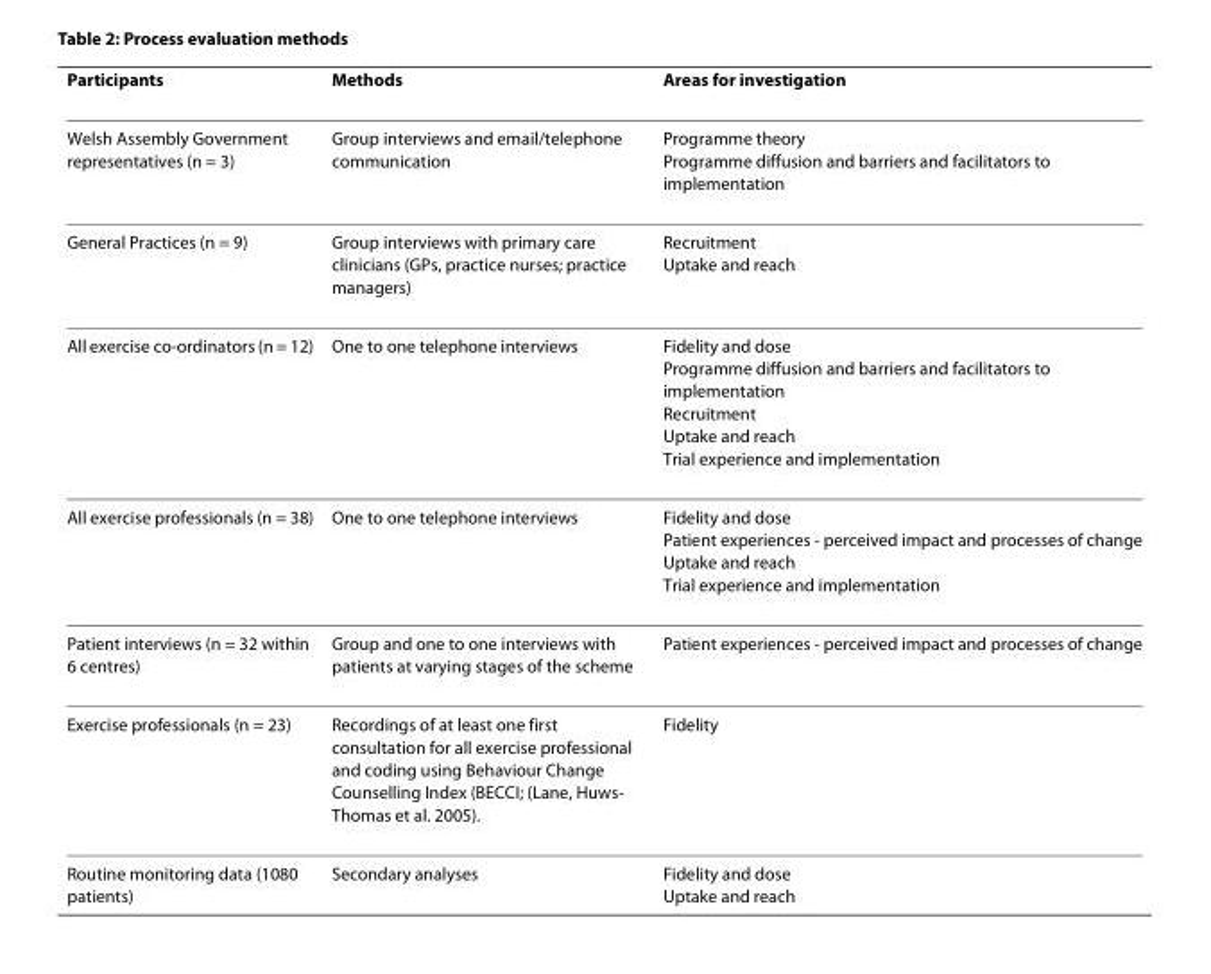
<table><thead><tr><td>Participants</td><td>Methods</td><td>Areas for investigation</td></tr></thead><tbody><tr><td>Welsh Assembly Government representatives (n = 3)</td><td>Group interviews and email/telephone communication</td><td>Programme theory Programme diffusion and barriers and facilitators to implementation</td></tr><tr><td>General Practices (n = 9)</td><td>Group interviews with primary care clinicians (GPs, practice nurses; practice managers)</td><td>Recruitment Uptake and reach</td></tr><tr><td>All exercise co-ordinators (n = 12)</td><td>One to one telephone interviews</td><td>Fidelity and dose Programme diffusion and barriers and facilitators to implementation Recruitment Uptake and reach Trial experience and implementation</td></tr><tr><td>All exercise professionals (n = 38)</td><td>One to one telephone interviews</td><td>Fidelity and dose Patient experiences - perceived impact and processes of change Uptake and reach Trial experience and implementation</td></tr><tr><td>Patient interviews (n = 32 within 6 centres)</td><td>Group and one to one interviews with patients at varying stages of the scheme</td><td>Patient experiences - perceived impact and processes of change</td></tr><tr><td>Exercise professionals (n = 23)</td><td>Recordings of at least one first consultation for all exercise professional and coding using Behaviour Change Counselling Index (BECCI; (Lane, Huws- Thomas et al. 2005).</td><td>Fidelity</td></tr><tr><td>Routine monitoring data (1080 patients)</td><td>Secondary analyses</td><td>Fidelity and dose Uptake and reach</td></tr></tbody></table>